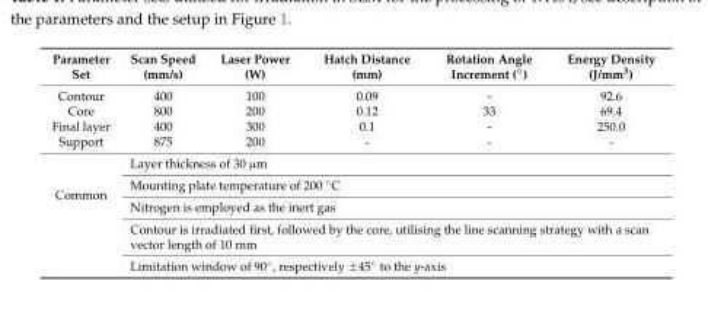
<table><thead><tr><td>Parameter Set</td><td>Scan Speed (mm/s)</td><td>Laser Power (W)</td><td>Hatch Distance (mm)</td><td>Rotation Angle Increment (◦)</td><td>Energy Density (J/mm<sup>3</sup>)</td></tr></thead><tbody><tr><td>Contour</td><td>400</td><td>100</td><td>0.09</td><td>-</td><td>92.6</td></tr><tr><td>Core</td><td>800</td><td>200</td><td>0.12</td><td>33</td><td>69.4</td></tr><tr><td>Final layer</td><td>400</td><td>300</td><td>0.1</td><td>-</td><td>250.0</td></tr><tr><td>Support</td><td>875</td><td>200</td><td>-</td><td>-</td><td>-</td></tr><tr><td rowspan="5">Common</td><td colspan="5">Layer thickness of 30 µm</td></tr><tr><td colspan="5">Mounting plate temperature of 200 ◦C</td></tr><tr><td colspan="5">Nitrogen is employed as the inert gas</td></tr><tr><td colspan="5">Contour is irradiated first, followed by the core, utilising the line scanning strategy with a scan vector length of 10 mm</td></tr><tr><td colspan="5">Limitation window of 90◦, respectively ±45◦ to the y-axis</td></tr></tbody></table>